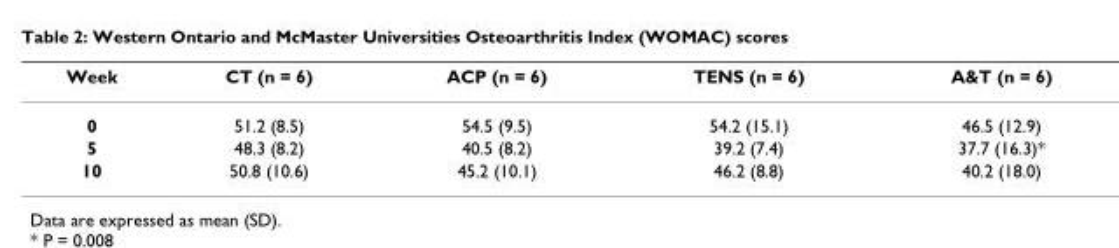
<table><thead><tr><td>Week</td><td>CT (n = 6)</td><td>ACP (n = 6)</td><td>TENS (n = 6)</td><td>A&amp;T (n = 6)</td></tr></thead><tbody><tr><td>0</td><td>51.2 (8.5)</td><td>54.5 (9.5)</td><td>54.2 (15.1)</td><td>46.5 (12.9)</td></tr><tr><td>5</td><td>48.3 (8.2)</td><td>40.5 (8.2)</td><td>39.2 (7.4)</td><td>37.7 (16.3)*</td></tr><tr><td>10</td><td>50.8 (10.6)</td><td>45.2 (10.1)</td><td>46.2 (8.8)</td><td>40.2 (18.0)</td></tr></tbody></table>